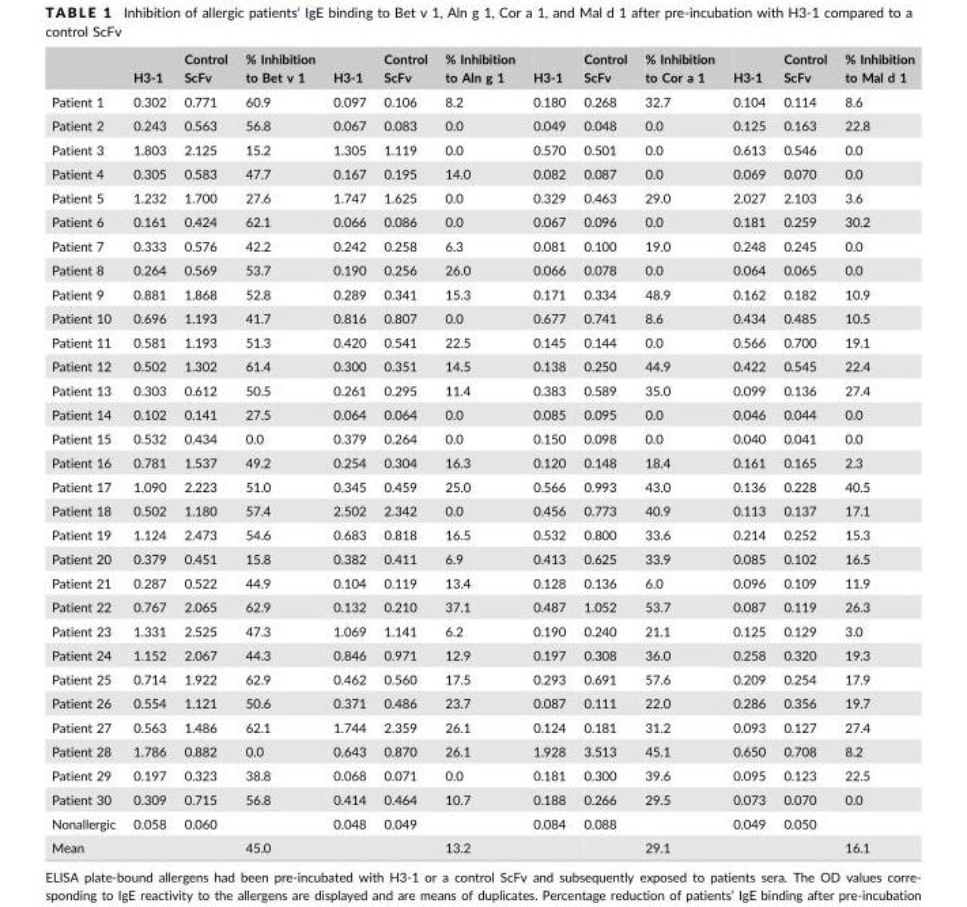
<table><thead><tr><td></td><td>H3-1</td><td>Control ScFv</td><td>% Inhibition to Bet v 1</td><td>H3-1</td><td>Control ScFv</td><td>% Inhibition to Aln g 1</td><td>H3-1</td><td>Control ScFv</td><td>% Inhibition to Cor a 1</td><td>H3-1</td><td>Control ScFv</td><td>% Inhibition to Mal d 1</td></tr></thead><tbody><tr><td>Patient 1</td><td>0.302</td><td>0.771</td><td>60.9</td><td>0.097</td><td>0.106</td><td>8.2</td><td>0.180</td><td>0.268</td><td>32.7</td><td>0.104</td><td>0.114</td><td>8.6</td></tr><tr><td>Patient 2</td><td>0.243</td><td>0.563</td><td>56.8</td><td>0.067</td><td>0.083</td><td>0.0</td><td>0.049</td><td>0.048</td><td>0.0</td><td>0.125</td><td>0.163</td><td>22.8</td></tr><tr><td>Patient 3</td><td>1.803</td><td>2.125</td><td>15.2</td><td>1.305</td><td>1.119</td><td>0.0</td><td>0.570</td><td>0.501</td><td>0.0</td><td>0.613</td><td>0.546</td><td>0.0</td></tr><tr><td>Patient 4</td><td>0.305</td><td>0.583</td><td>47.7</td><td>0.167</td><td>0.195</td><td>14.0</td><td>0.082</td><td>0.087</td><td>0.0</td><td>0.069</td><td>0.070</td><td>0.0</td></tr><tr><td>Patient 5</td><td>1.232</td><td>1.700</td><td>27.6</td><td>1.747</td><td>1.625</td><td>0.0</td><td>0.329</td><td>0.463</td><td>29.0</td><td>2.027</td><td>2.103</td><td>3.6</td></tr><tr><td>Patient 6</td><td>0.161</td><td>0.424</td><td>62.1</td><td>0.066</td><td>0.086</td><td>0.0</td><td>0.067</td><td>0.096</td><td>0.0</td><td>0.181</td><td>0.259</td><td>30.2</td></tr><tr><td>Patient 7</td><td>0.333</td><td>0.576</td><td>42.2</td><td>0.242</td><td>0.258</td><td>6.3</td><td>0.081</td><td>0.100</td><td>19.0</td><td>0.248</td><td>0.245</td><td>0.0</td></tr><tr><td>Patient 8</td><td>0.264</td><td>0.569</td><td>53.7</td><td>0.190</td><td>0.256</td><td>26.0</td><td>0.066</td><td>0.078</td><td>0.0</td><td>0.064</td><td>0.065</td><td>0.0</td></tr><tr><td>Patient 9</td><td>0.881</td><td>1.868</td><td>52.8</td><td>0.289</td><td>0.341</td><td>15.3</td><td>0.171</td><td>0.334</td><td>48.9</td><td>0.162</td><td>0.182</td><td>10.9</td></tr><tr><td>Patient 10</td><td>0.696</td><td>1.193</td><td>41.7</td><td>0.816</td><td>0.807</td><td>0.0</td><td>0.677</td><td>0.741</td><td>8.6</td><td>0.434</td><td>0.485</td><td>10.5</td></tr><tr><td>Patient 11</td><td>0.581</td><td>1.193</td><td>51.3</td><td>0.420</td><td>0.541</td><td>22.5</td><td>0.145</td><td>0.144</td><td>0.0</td><td>0.566</td><td>0.700</td><td>19.1</td></tr><tr><td>Patient 12</td><td>0.502</td><td>1.302</td><td>61.4</td><td>0.300</td><td>0.351</td><td>14.5</td><td>0.138</td><td>0.250</td><td>44.9</td><td>0.422</td><td>0.545</td><td>22.4</td></tr><tr><td>Patient 13</td><td>0.303</td><td>0.612</td><td>50.5</td><td>0.261</td><td>0.295</td><td>11.4</td><td>0.383</td><td>0.589</td><td>35.0</td><td>0.099</td><td>0.136</td><td>27.4</td></tr><tr><td>Patient 14</td><td>0.102</td><td>0.141</td><td>27.5</td><td>0.064</td><td>0.064</td><td>0.0</td><td>0.085</td><td>0.095</td><td>0.0</td><td>0.046</td><td>0.044</td><td>0.0</td></tr><tr><td>Patient 15</td><td>0.532</td><td>0.434</td><td>0.0</td><td>0.379</td><td>0.264</td><td>0.0</td><td>0.150</td><td>0.098</td><td>0.0</td><td>0.040</td><td>0.041</td><td>0.0</td></tr><tr><td>Patient 16</td><td>0.781</td><td>1.537</td><td>49.2</td><td>0.254</td><td>0.304</td><td>16.3</td><td>0.120</td><td>0.148</td><td>18.4</td><td>0.161</td><td>0.165</td><td>2.3</td></tr><tr><td>Patient 17</td><td>1.090</td><td>2.223</td><td>51.0</td><td>0.345</td><td>0.459</td><td>25.0</td><td>0.566</td><td>0.993</td><td>43.0</td><td>0.136</td><td>0.228</td><td>40.5</td></tr><tr><td>Patient 18</td><td>0.502</td><td>1.180</td><td>57.4</td><td>2.502</td><td>2.342</td><td>0.0</td><td>0.456</td><td>0.773</td><td>40.9</td><td>0.113</td><td>0.137</td><td>17.1</td></tr><tr><td>Patient 19</td><td>1.124</td><td>2.473</td><td>54.6</td><td>0.683</td><td>0.818</td><td>16.5</td><td>0.532</td><td>0.800</td><td>33.6</td><td>0.214</td><td>0.252</td><td>15.3</td></tr><tr><td>Patient 20</td><td>0.379</td><td>0.451</td><td>15.8</td><td>0.382</td><td>0.411</td><td>6.9</td><td>0.413</td><td>0.625</td><td>33.9</td><td>0.085</td><td>0.102</td><td>16.5</td></tr><tr><td>Patient 21</td><td>0.287</td><td>0.522</td><td>44.9</td><td>0.104</td><td>0.119</td><td>13.4</td><td>0.128</td><td>0.136</td><td>6.0</td><td>0.096</td><td>0.109</td><td>11.9</td></tr><tr><td>Patient 22</td><td>0.767</td><td>2.065</td><td>62.9</td><td>0.132</td><td>0.210</td><td>37.1</td><td>0.487</td><td>1.052</td><td>53.7</td><td>0.087</td><td>0.119</td><td>26.3</td></tr><tr><td>Patient 23</td><td>1.331</td><td>2.525</td><td>47.3</td><td>1.069</td><td>1.141</td><td>6.2</td><td>0.190</td><td>0.240</td><td>21.1</td><td>0.125</td><td>0.129</td><td>3.0</td></tr><tr><td>Patient 24</td><td>1.152</td><td>2.067</td><td>44.3</td><td>0.846</td><td>0.971</td><td>12.9</td><td>0.197</td><td>0.308</td><td>36.0</td><td>0.258</td><td>0.320</td><td>19.3</td></tr><tr><td>Patient 25</td><td>0.714</td><td>1.922</td><td>62.9</td><td>0.462</td><td>0.560</td><td>17.5</td><td>0.293</td><td>0.691</td><td>57.6</td><td>0.209</td><td>0.254</td><td>17.9</td></tr><tr><td>Patient 26</td><td>0.554</td><td>1.121</td><td>50.6</td><td>0.371</td><td>0.486</td><td>23.7</td><td>0.087</td><td>0.111</td><td>22.0</td><td>0.286</td><td>0.356</td><td>19.7</td></tr><tr><td>Patient 27</td><td>0.563</td><td>1.486</td><td>62.1</td><td>1.744</td><td>2.359</td><td>26.1</td><td>0.124</td><td>0.181</td><td>31.2</td><td>0.093</td><td>0.127</td><td>27.4</td></tr><tr><td>Patient 28</td><td>1.786</td><td>0.882</td><td>0.0</td><td>0.643</td><td>0.870</td><td>26.1</td><td>1.928</td><td>3.513</td><td>45.1</td><td>0.650</td><td>0.708</td><td>8.2</td></tr><tr><td>Patient 29</td><td>0.197</td><td>0.323</td><td>38.8</td><td>0.068</td><td>0.071</td><td>0.0</td><td>0.181</td><td>0.300</td><td>39.6</td><td>0.095</td><td>0.123</td><td>22.5</td></tr><tr><td>Patient 30</td><td>0.309</td><td>0.715</td><td>56.8</td><td>0.414</td><td>0.464</td><td>10.7</td><td>0.188</td><td>0.266</td><td>29.5</td><td>0.073</td><td>0.070</td><td>0.0</td></tr><tr><td>Nonallergic</td><td>0.058</td><td>0.060</td><td></td><td>0.048</td><td>0.049</td><td></td><td>0.084</td><td>0.088</td><td></td><td>0.049</td><td>0.050</td><td></td></tr><tr><td>Mean</td><td></td><td></td><td>45.0</td><td></td><td></td><td>13.2</td><td></td><td></td><td>29.1</td><td></td><td></td><td>16.1</td></tr></tbody></table>